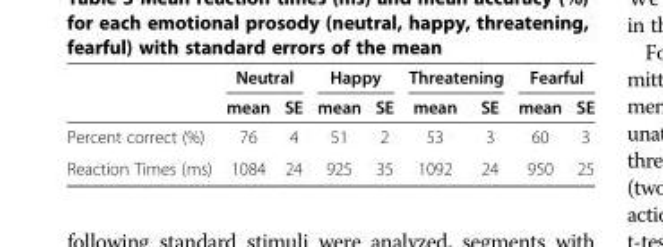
<table><thead><tr><td rowspan="2"></td><td colspan="2">Neutral</td><td colspan="2">Happy</td><td colspan="2">Threatening</td><td colspan="2">Fearful</td></tr><tr><td>mean</td><td>SE</td><td>mean</td><td>SE</td><td>mean</td><td>SE</td><td>mean</td><td>SE</td></tr></thead><tbody><tr><td>Percent correct (%)</td><td>76</td><td>4</td><td>51</td><td>2</td><td>53</td><td>3</td><td>60</td><td>3</td></tr><tr><td>Reaction Times (ms)</td><td>1084</td><td>24</td><td>925</td><td>35</td><td>1092</td><td>24</td><td>950</td><td>25</td></tr></tbody></table>